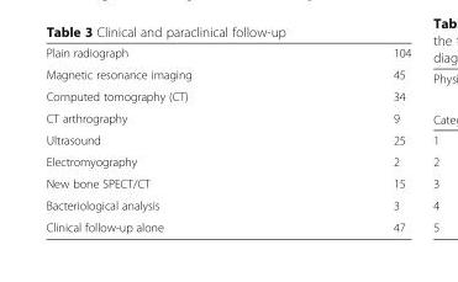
<table><tbody><tr><td>Plain radiograph</td><td>104</td></tr><tr><td>Magnetic resonance imaging</td><td>45</td></tr><tr><td>Computed tomography (CT)</td><td>34</td></tr><tr><td>CT arthrography</td><td>9</td></tr><tr><td>Ultrasound</td><td>25</td></tr><tr><td>Electromyography</td><td>2</td></tr><tr><td>New bone SPECT/CT</td><td>15</td></tr><tr><td>Bacteriological analysis</td><td>3</td></tr><tr><td>Clinical follow-up alone</td><td>47</td></tr></tbody></table>